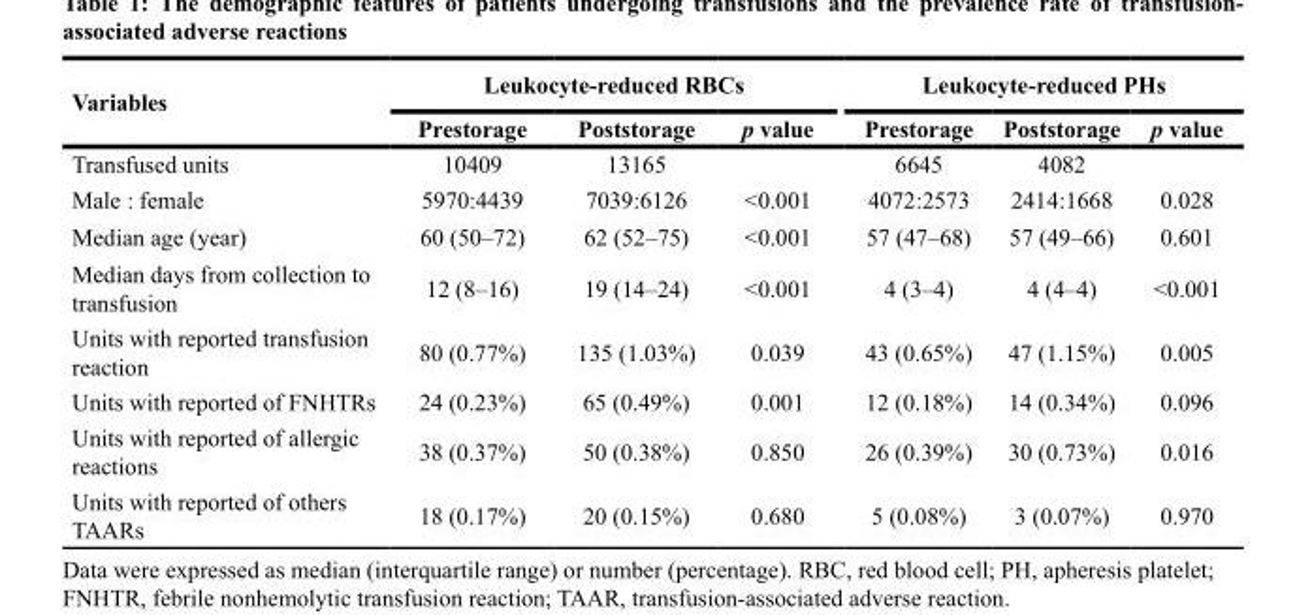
<table><thead><tr><td rowspan="2">Variables</td><td colspan="3">Leukocyte-reduced RBCs</td><td colspan="3">Leukocyte-reduced PHs</td></tr><tr><td>Prestorage</td><td>Poststorage</td><td>p value</td><td>Prestorage</td><td>Poststorage</td><td>p value</td></tr></thead><tbody><tr><td>Transfused units</td><td>10409</td><td>13165</td><td></td><td>6645</td><td>4082</td><td></td></tr><tr><td>Male : female</td><td>5970:4439</td><td>7039:6126</td><td>&lt;0.001</td><td>4072:2573</td><td>2414:1668</td><td>0.028</td></tr><tr><td>Median age (year)</td><td>60 (50–72)</td><td>62 (52–75)</td><td>&lt;0.001</td><td>57 (47–68)</td><td>57 (49–66)</td><td>0.601</td></tr><tr><td>Median days from collection to transfusion</td><td>12 (8–16)</td><td>19 (14–24)</td><td>&lt;0.001</td><td>4 (3–4)</td><td>4 (4–4)</td><td>&lt;0.001</td></tr><tr><td>Units with reported transfusion reaction</td><td>80 (0.77%)</td><td>135 (1.03%)</td><td>0.039</td><td>43 (0.65%)</td><td>47 (1.15%)</td><td>0.005</td></tr><tr><td>Units with reported of FNHTRs</td><td>24 (0.23%)</td><td>65 (0.49%)</td><td>0.001</td><td>12 (0.18%)</td><td>14 (0.34%)</td><td>0.096</td></tr><tr><td>Units with reported of allergic reactions</td><td>38 (0.37%)</td><td>50 (0.38%)</td><td>0.850</td><td>26 (0.39%)</td><td>30 (0.73%)</td><td>0.016</td></tr><tr><td>Units with reported of others TAARs</td><td>18 (0.17%)</td><td>20 (0.15%)</td><td>0.680</td><td>5 (0.08%)</td><td>3 (0.07%)</td><td>0.970</td></tr></tbody></table>